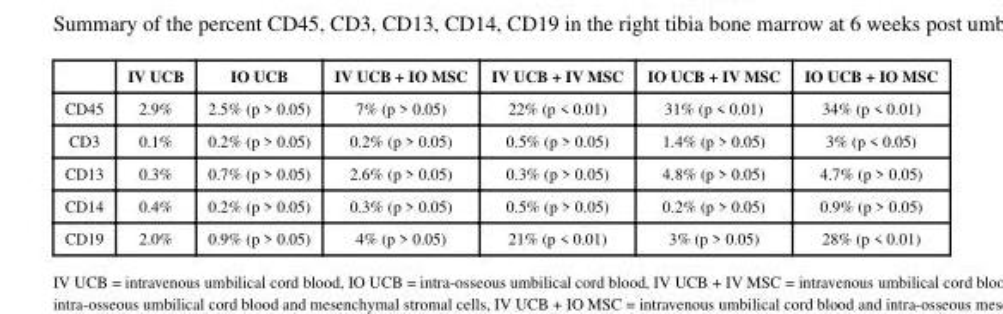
<table><thead><tr><td></td><td>IV UCB</td><td>IO UCB</td><td>IV UCB + IO MSC</td><td>IV UCB + IV MSC</td><td>IO UCB + IV MSC</td><td>IO UCB + IO MSC</td></tr></thead><tbody><tr><td>CD45</td><td>2.9%</td><td>2.5% (p &gt; 0.05)</td><td>7% (p &gt; 0.05)</td><td>22% (p &lt; 0.01)</td><td>31% (p &lt; 0.01)</td><td>34% (p &lt; 0.01)</td></tr><tr><td>CD3</td><td>0.1%</td><td>0.2% (p &gt; 0.05)</td><td>0.2% (p &gt; 0.05)</td><td>0.5% (p &gt; 0.05)</td><td>1.4% (p &gt; 0.05)</td><td>3% (p &lt; 0.05)</td></tr><tr><td>CD13</td><td>0.3%</td><td>0.7% (p &gt; 0.05)</td><td>2.6% (p &gt; 0.05)</td><td>0.3% (p &gt; 0.05)</td><td>4.8% (p &gt; 0.05)</td><td>4.7% (p &gt; 0.05)</td></tr><tr><td>CD14</td><td>0.4%</td><td>0.2% (p &gt; 0.05)</td><td>0.3% (p &gt; 0.05)</td><td>0.5% (p &gt; 0.05)</td><td>0.2% (p &gt; 0.05)</td><td>0.9% (p &gt; 0.05)</td></tr><tr><td>CD19</td><td>2.0%</td><td>0.9% (p &gt; 0.05)</td><td>4% (p &gt; 0.05)</td><td>21% (p &lt; 0.01)</td><td>3% (p &gt; 0.05)</td><td>28% (p &lt; 0.01)</td></tr></tbody></table>